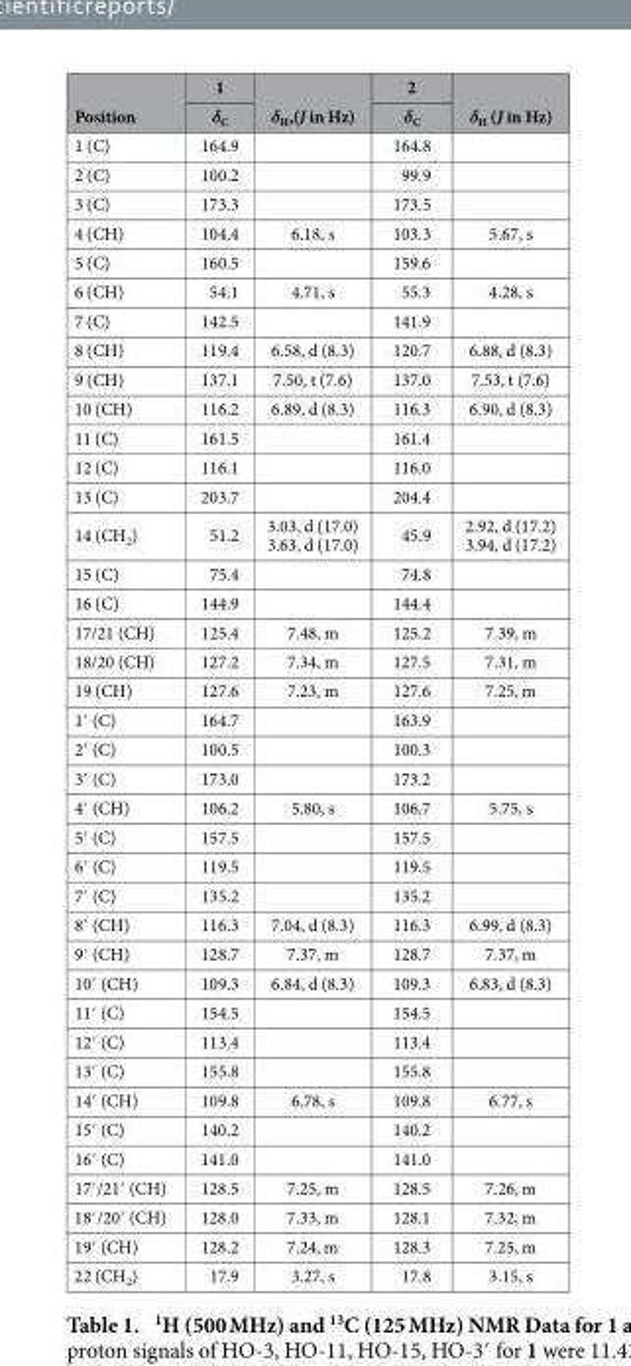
<table><thead><tr><td rowspan="2">Position</td><td rowspan="2">1 δ<sub>C</sub></td><td rowspan="2">δ<sub>H</sub>,(J in Hz)</td><td rowspan="2">2 δ<sub>C</sub></td><td rowspan="2">δ<sub>H</sub> (J in Hz)</td></tr><tr></tr></thead><tbody><tr><td>1 (C)</td><td>164.9</td><td></td><td>164.8</td><td></td></tr><tr><td>2 (C)</td><td>100.2</td><td></td><td>99.9</td><td></td></tr><tr><td>3 (C)</td><td>173.3</td><td></td><td>173.5</td><td></td></tr><tr><td>4 (CH)</td><td>104.4</td><td>6.18, s</td><td>103.3</td><td>5.67, s</td></tr><tr><td>5 (C)</td><td>160.5</td><td></td><td>159.6</td><td></td></tr><tr><td>6 (CH)</td><td>54.1</td><td>4.71, s</td><td>55.3</td><td>4.28, s</td></tr><tr><td>7 (C)</td><td>142.5</td><td></td><td>141.9</td><td></td></tr><tr><td>8 (CH)</td><td>119.4</td><td>6.58, d (8.3)</td><td>120.7</td><td>6.88, d (8.3)</td></tr><tr><td>9 (CH)</td><td>137.1</td><td>7.50, t (7.6)</td><td>137.0</td><td>7.53, t (7.6)</td></tr><tr><td>10 (CH)</td><td>116.2</td><td>6.89, d (8.3)</td><td>116.3</td><td>6.90, d (8.3)</td></tr><tr><td>11 (C)</td><td>161.5</td><td></td><td>161.4</td><td></td></tr><tr><td>12 (C)</td><td>116.1</td><td></td><td>116.0</td><td></td></tr><tr><td>13 (C)</td><td>203.7</td><td></td><td>204.4</td><td></td></tr><tr><td>14 (CH<sub>2</sub>)</td><td>51.2</td><td>3.03, d (17.0) 3.63, d (17.0)</td><td>45.9</td><td>2.92, d (17.2) 3.94, d (17.2)</td></tr><tr><td>15 (C)</td><td>75.4</td><td></td><td>74.8</td><td></td></tr><tr><td>16 (C)</td><td>144.9</td><td></td><td>144.4</td><td></td></tr><tr><td>17/21 (CH)</td><td>125.4</td><td>7.48, m</td><td>125.2</td><td>7.39, m</td></tr><tr><td>18/20 (CH)</td><td>127.2</td><td>7.34, m</td><td>127.5</td><td>7.31, m</td></tr><tr><td>19 (CH)</td><td>127.6</td><td>7.23, m</td><td>127.6</td><td>7.25, m</td></tr><tr><td>1′ (C)</td><td>164.7</td><td></td><td>163.9</td><td></td></tr><tr><td>2′ (C)</td><td>100.5</td><td></td><td>100.3</td><td></td></tr><tr><td>3′ (C)</td><td>173.0</td><td></td><td>173.2</td><td></td></tr><tr><td>4′ (CH)</td><td>106.2</td><td>5.80, s</td><td>106.7</td><td>5.75, s</td></tr><tr><td>5′ (C)</td><td>157.5</td><td></td><td>157.5</td><td></td></tr><tr><td>6′ (C)</td><td>119.5</td><td></td><td>119.5</td><td></td></tr><tr><td>7′ (C)</td><td>135.2</td><td></td><td>135.2</td><td></td></tr><tr><td>8′ (CH)</td><td>116.3</td><td>7.04, d (8.3)</td><td>116.3</td><td>6.99, d (8.3)</td></tr><tr><td>9′ (CH)</td><td>128.7</td><td>7.37, m</td><td>128.7</td><td>7.37, m</td></tr><tr><td>10′ (CH)</td><td>109.3</td><td>6.84, d (8.3)</td><td>109.3</td><td>6.83, d (8.3)</td></tr><tr><td>11′ (C)</td><td>154.5</td><td></td><td>154.5</td><td></td></tr><tr><td>12′ (C)</td><td>113.4</td><td></td><td>113.4</td><td></td></tr><tr><td>13′ (C)</td><td>155.8</td><td></td><td>155.8</td><td></td></tr><tr><td>14′ (CH)</td><td>109.8</td><td>6.78, s</td><td>109.8</td><td>6.77, s</td></tr><tr><td>15′ (C)</td><td>140.2</td><td></td><td>140.2</td><td></td></tr><tr><td>16′ (C)</td><td>141.0</td><td></td><td>141.0</td><td></td></tr><tr><td>17′ /21′ (CH)</td><td>128.5</td><td>7.25, m</td><td>128.5</td><td>7.26, m</td></tr><tr><td>18′ /20′ (CH)</td><td>128.0</td><td>7.33, m</td><td>128.1</td><td>7.32, m</td></tr><tr><td>19′ (CH)</td><td>128.2</td><td>7.24, m</td><td>128.3</td><td>7.25, m</td></tr><tr><td>22 (CH<sub>2</sub>)</td><td>17.9</td><td>3.27, s</td><td>17.8</td><td>3.15, s</td></tr></tbody></table>